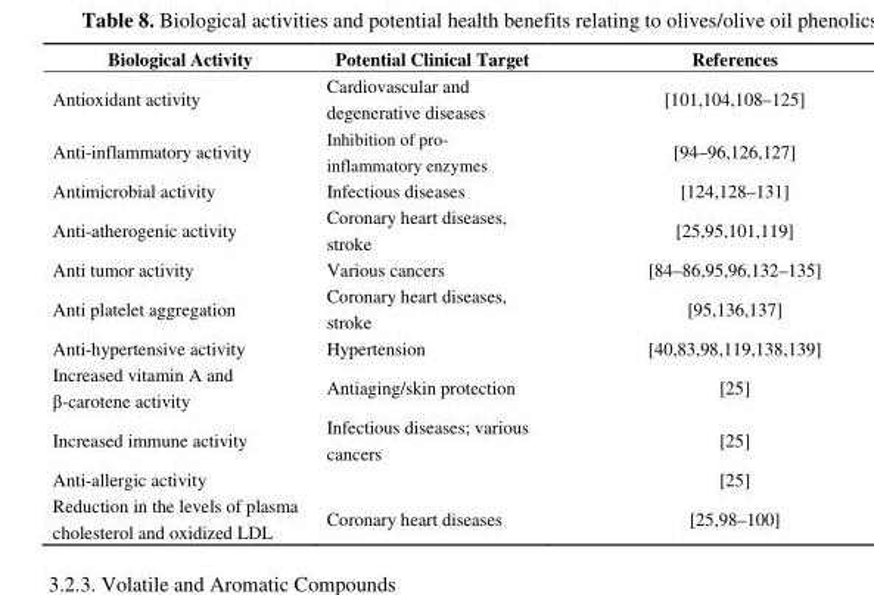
<table><thead><tr><td>Biological Activity</td><td>Potential Clinical Target</td><td>References</td></tr></thead><tbody><tr><td>Antioxidant activity</td><td>Cardiovascular and degenerative diseases</td><td>[101,104,108–125]</td></tr><tr><td>Anti-inflammatory activity</td><td>Inhibition of pro- inflammatory enzymes</td><td>[94–96,126,127]</td></tr><tr><td>Antimicrobial activity</td><td>Infectious diseases</td><td>[124,128–131]</td></tr><tr><td>Anti-atherogenic activity</td><td>Coronary heart diseases, stroke</td><td>[25,95,101,119]</td></tr><tr><td>Anti tumor activity</td><td>Various cancers</td><td>[84–86,95,96,132–135]</td></tr><tr><td>Anti platelet aggregation</td><td>Coronary heart diseases, stroke</td><td>[95,136,137]</td></tr><tr><td>Anti-hypertensive activity</td><td>Hypertension</td><td>[40,83,98,119,138,139]</td></tr><tr><td>Increased vitamin A and β-carotene activity</td><td>Antiaging/skin protection</td><td>[25]</td></tr><tr><td>Increased immune activity</td><td>Infectious diseases; various cancers</td><td>[25]</td></tr><tr><td>Anti-allergic activity</td><td></td><td>[25]</td></tr><tr><td>Reduction in the levels of plasma cholesterol and oxidized LDL</td><td>Coronary heart diseases</td><td>[25,98–100]</td></tr></tbody></table>